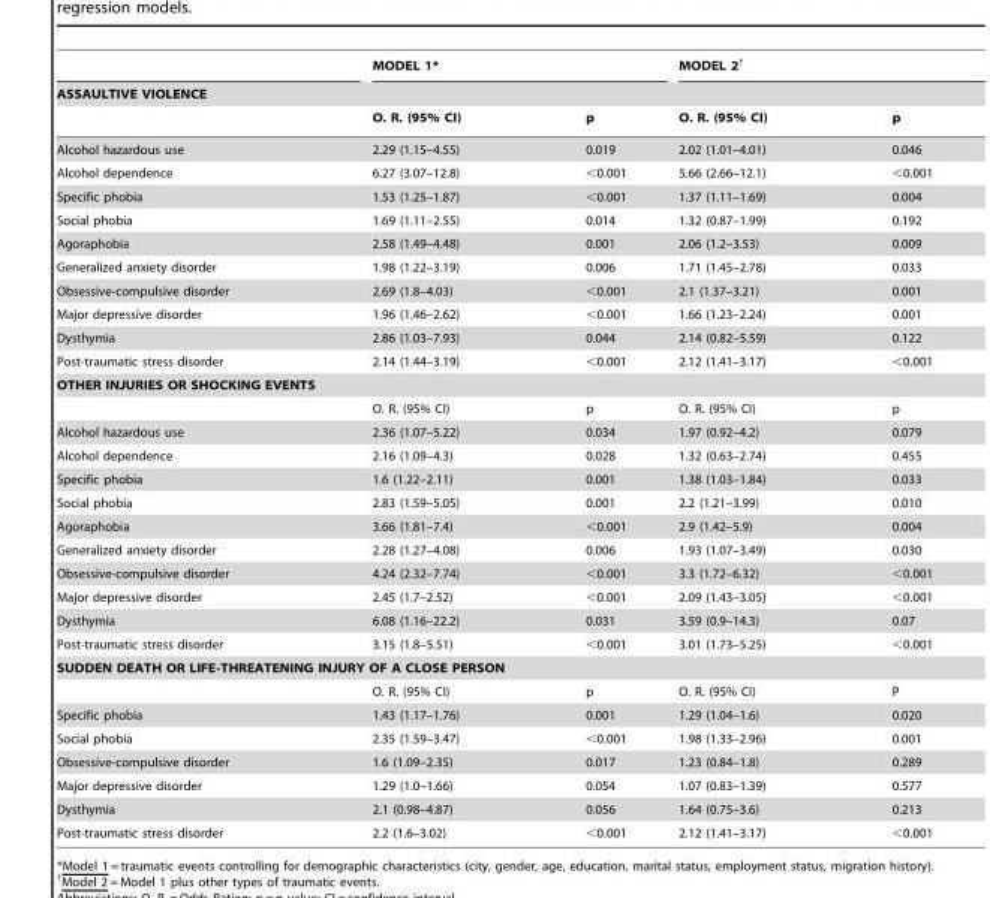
<table><thead><tr><td></td><td colspan="2">MODEL 1*</td><td colspan="2">MODEL 2†</td></tr><tr><td colspan="5">ASSAULTIVE VIOLENCE</td></tr><tr><td></td><td>O. R. (95% CI)</td><td>p</td><td>O. R. (95% CI)</td><td>p</td></tr></thead><tbody><tr><td>Alcohol hazardous use</td><td>2.29 (1.15–4.55)</td><td>0.019</td><td>2.02 (1.01–4.01)</td><td>0.046</td></tr><tr><td>Alcohol dependence</td><td>6.27 (3.07–12.8)</td><td>&lt;0.001</td><td>5.66 (2.66–12.1)</td><td>&lt;0.001</td></tr><tr><td>Specific phobia</td><td>1.53 (1.25–1.87)</td><td>&lt;0.001</td><td>1.37 (1.11–1.69)</td><td>0.004</td></tr><tr><td>Social phobia</td><td>1.69 (1.11–2.55)</td><td>0.014</td><td>1.32 (0.87–1.99)</td><td>0.192</td></tr><tr><td>Agoraphobia</td><td>2.58 (1.49–4.48)</td><td>0.001</td><td>2.06 (1.2–3.53)</td><td>0.009</td></tr><tr><td>Generalized anxiety disorder</td><td>1.98 (1.22–3.19)</td><td>0.006</td><td>1.71 (1.45–2.78)</td><td>0.033</td></tr><tr><td>Obsessive-compulsive disorder</td><td>2.69 (1.8–4.03)</td><td>&lt;0.001</td><td>2.1 (1.37–3.21)</td><td>0.001</td></tr><tr><td>Major depressive disorder</td><td>1.96 (1.46–2.62)</td><td>&lt;0.001</td><td>1.66 (1.23–2.24)</td><td>0.001</td></tr><tr><td>Dysthymia</td><td>2.86 (1.03–7.93)</td><td>0.044</td><td>2.14 (0.82–5.59)</td><td>0.122</td></tr><tr><td>Post-traumatic stress disorder</td><td>2.14 (1.44–3.19)</td><td>&lt;0.001</td><td>2.12 (1.41–3.17)</td><td>&lt;0.001</td></tr><tr><td colspan="5">OTHER INJURIES OR SHOCKING EVENTS</td></tr><tr><td></td><td>O. R. (95% CI)</td><td>p</td><td>O. R. (95% CI)</td><td>p</td></tr><tr><td>Alcohol hazardous use</td><td>2.36 (1.07–5.22)</td><td>0.034</td><td>1.97 (0.92–4.2)</td><td>0.079</td></tr><tr><td>Alcohol dependence</td><td>2.16 (1.09–4.3)</td><td>0.028</td><td>1.32 (0.63–2.74)</td><td>0.455</td></tr><tr><td>Specific phobia</td><td>1.6 (1.22–2.11)</td><td>0.001</td><td>1.38 (1.03–1.84)</td><td>0.033</td></tr><tr><td>Social phobia</td><td>2.83 (1.59–5.05)</td><td>0.001</td><td>2.2 (1.21–3.99)</td><td>0.010</td></tr><tr><td>Agoraphobia</td><td>3.66 (1.81–7.4)</td><td>&lt;0.001</td><td>2.9 (1.42–5.9)</td><td>0.004</td></tr><tr><td>Generalized anxiety disorder</td><td>2.28 (1.27–4.08)</td><td>0.006</td><td>1.93 (1.07–3.49)</td><td>0.030</td></tr><tr><td>Obsessive-compulsive disorder</td><td>4.24 (2.32–7.74)</td><td>&lt;0.001</td><td>3.3 (1.72–6.32)</td><td>&lt;0.001</td></tr><tr><td>Major depressive disorder</td><td>2.45 (1.7–2.52)</td><td>&lt;0.001</td><td>2.09 (1.43–3.05)</td><td>&lt;0.001</td></tr><tr><td>Dysthymia</td><td>6.08 (1.16–22.2)</td><td>0.031</td><td>3.59 (0.9–14.3)</td><td>0.07</td></tr><tr><td>Post-traumatic stress disorder</td><td>3.15 (1.8–5.51)</td><td>&lt;0.001</td><td>3.01 (1.73–5.25)</td><td>&lt;0.001</td></tr><tr><td colspan="5">SUDDEN DEATH OR LIFE-THREATENING INJURY OF A CLOSE PERSON</td></tr><tr><td></td><td>O. R. (95% CI)</td><td>p</td><td>O. R. (95% CI)</td><td>P</td></tr><tr><td>Specific phobia</td><td>1.43 (1.17–1.76)</td><td>0.001</td><td>1.29 (1.04–1.6)</td><td>0.020</td></tr><tr><td>Social phobia</td><td>2.35 (1.59–3.47)</td><td>&lt;0.001</td><td>1.98 (1.33–2.96)</td><td>0.001</td></tr><tr><td>Obsessive-compulsive disorder</td><td>1.6 (1.09–2.35)</td><td>0.017</td><td>1.23 (0.84–1.8)</td><td>0.289</td></tr><tr><td>Major depressive disorder</td><td>1.29 (1.0–1.66)</td><td>0.054</td><td>1.07 (0.83–1.39)</td><td>0.577</td></tr><tr><td>Dysthymia</td><td>2.1 (0.98–4.87)</td><td>0.056</td><td>1.64 (0.75–3.6)</td><td>0.213</td></tr><tr><td>Post-traumatic stress disorder</td><td>2.2 (1.6–3.02)</td><td>&lt;0.001</td><td>2.12 (1.41–3.17)</td><td>&lt;0.001</td></tr></tbody></table>